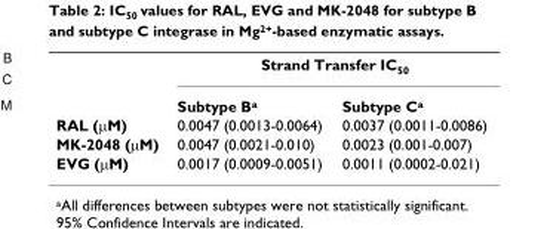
<table><thead><tr><td rowspan="2"></td><td colspan="2">Strand Transfer IC<sub>50</sub></td></tr><tr><td>Subtype B<sup>a</sup></td><td>Subtype C<sup>a</sup></td></tr></thead><tbody><tr><td>RAL (μM)</td><td>0.0047 (0.0013-0.0064)</td><td>0.0037 (0.0011-0.0086)</td></tr><tr><td>MK-2048 (μM)</td><td>0.0047 (0.0021-0.010)</td><td>0.0023 (0.001-0.007)</td></tr><tr><td>EVG (μM)</td><td>0.0017 (0.0009-0.0051)</td><td>0.0011 (0.0002-0.021)</td></tr></tbody></table>